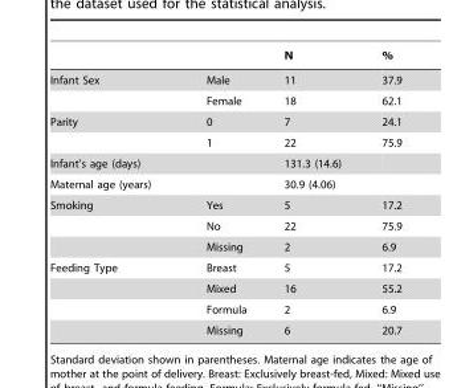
<table><thead><tr><td></td><td></td><td>N</td><td>%</td></tr></thead><tbody><tr><td rowspan="2">Infant Sex</td><td>Male</td><td>11</td><td>37.9</td></tr><tr><td>Female</td><td>18</td><td>62.1</td></tr><tr><td rowspan="2">Parity</td><td>0</td><td>7</td><td>24.1</td></tr><tr><td>1</td><td>22</td><td>75.9</td></tr><tr><td>Infant’s age (days)</td><td></td><td>131.3 (14.6)</td><td></td></tr><tr><td>Maternal age (years)</td><td></td><td>30.9 (4.06)</td><td></td></tr><tr><td rowspan="3">Smoking</td><td>Yes</td><td>5</td><td>17.2</td></tr><tr><td>No</td><td>22</td><td>75.9</td></tr><tr><td>Missing</td><td>2</td><td>6.9</td></tr><tr><td rowspan="4">Feeding Type</td><td>Breast</td><td>5</td><td>17.2</td></tr><tr><td>Mixed</td><td>16</td><td>55.2</td></tr><tr><td>Formula</td><td>2</td><td>6.9</td></tr><tr><td>Missing</td><td>6</td><td>20.7</td></tr></tbody></table>